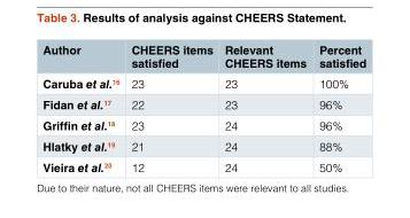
<table><thead><tr><td>Author</td><td>CHEERS items satisfied</td><td>Relevant CHEERS items</td><td>Percent satisfied</td></tr></thead><tbody><tr><td>Caruba et al.<sup>16</sup></td><td>23</td><td>23</td><td>100%</td></tr><tr><td>Fidan et al.<sup>17</sup></td><td>22</td><td>23</td><td>96%</td></tr><tr><td>Griffin et al.<sup>18</sup></td><td>23</td><td>24</td><td>96%</td></tr><tr><td>Hlatky et al.<sup>19</sup></td><td>21</td><td>24</td><td>88%</td></tr><tr><td>Vieira et al.<sup>20</sup></td><td>12</td><td>24</td><td>50%</td></tr></tbody></table>